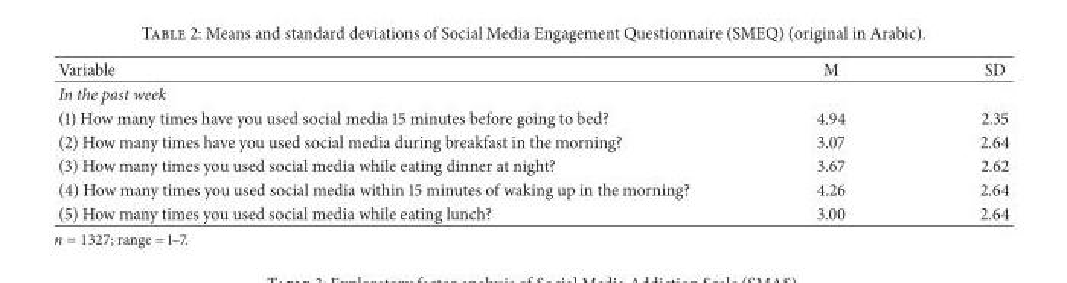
<table><thead><tr><td>Variable</td><td>M</td><td>SD</td></tr></thead><tbody><tr><td colspan="3">In the past week</td></tr><tr><td>(1) How many times have you used social media 15 minutes before going to bed?</td><td>4.94</td><td>2.35</td></tr><tr><td>(2) How many times have you used social media during breakfast in the morning?</td><td>3.07</td><td>2.64</td></tr><tr><td>(3) How many times you used social media while eating dinner at night?</td><td>3.67</td><td>2.62</td></tr><tr><td>(4) How many times you used social media within 15 minutes of waking up in the morning?</td><td>4.26</td><td>2.64</td></tr><tr><td>(5) How many times you used social media while eating lunch?</td><td>3.00</td><td>2.64</td></tr></tbody></table>